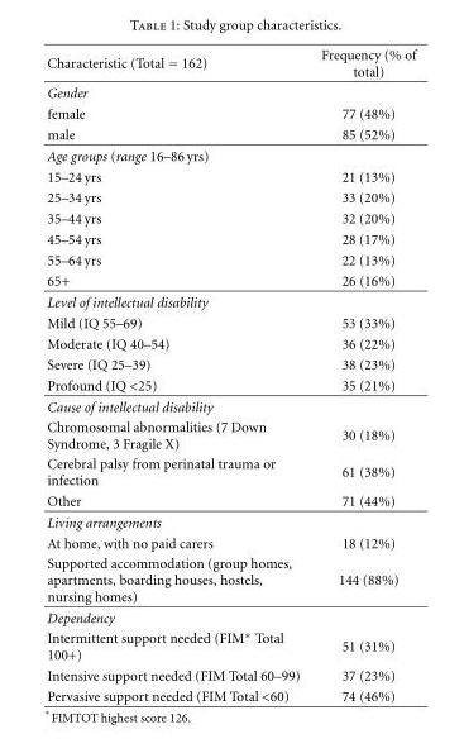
<table><thead><tr><td>Characteristic (Total = 162)</td><td>Frequency (% of total)</td></tr></thead><tbody><tr><td colspan="2">Gender</td></tr><tr><td>female</td><td>77 (48%)</td></tr><tr><td>male</td><td>85 (52%)</td></tr><tr><td colspan="2">Age groups (range 16–86 yrs)</td></tr><tr><td>15–24 yrs</td><td>21 (13%)</td></tr><tr><td>25–34 yrs</td><td>33 (20%)</td></tr><tr><td>35–44 yrs</td><td>32 (20%)</td></tr><tr><td>45–54 yrs</td><td>28 (17%)</td></tr><tr><td>55–64 yrs</td><td>22 (13%)</td></tr><tr><td>65+</td><td>26 (16%)</td></tr><tr><td colspan="2">Level of intellectual disability</td></tr><tr><td>Mild (IQ 55–69)</td><td>53 (33%)</td></tr><tr><td>Moderate (IQ 40–54)</td><td>36 (22%)</td></tr><tr><td>Severe (IQ 25–39)</td><td>38 (23%)</td></tr><tr><td>Profound (IQ &lt;25)</td><td>35 (21%)</td></tr><tr><td colspan="2">Cause of intellectual disability</td></tr><tr><td>Chromosomal abnormalities (7 Down Syndrome, 3 Fragile X)</td><td>30 (18%)</td></tr><tr><td>Cerebral palsy from perinatal trauma or infection</td><td>61 (38%)</td></tr><tr><td>Other</td><td>71 (44%)</td></tr><tr><td colspan="2">Living arrangements</td></tr><tr><td>At home, with no paid carers</td><td>18 (12%)</td></tr><tr><td>Supported accommodation (group homes, apartments, boarding houses, hostels, nursing homes)</td><td>144 (88%)</td></tr><tr><td colspan="2">Dependency</td></tr><tr><td>Intermittent support needed (FIM∗ Total 100+)</td><td>51 (31%)</td></tr><tr><td>Intensive support needed (FIM Total 60–99)</td><td>37 (23%)</td></tr><tr><td>Pervasive support needed (FIM Total &lt;60)</td><td>74 (46%)</td></tr></tbody></table>